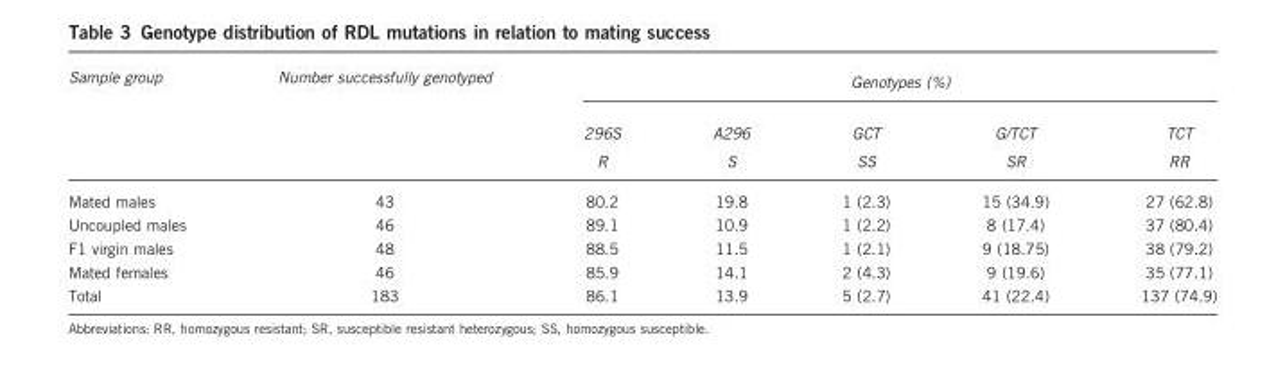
<table><thead><tr><td rowspan="3">Sample group</td><td rowspan="3">Number successfully genotyped</td><td colspan="5">Genotypes (%)</td></tr><tr><td rowspan="2">296S R</td><td rowspan="2">A296 S</td><td rowspan="2">GCT SS</td><td rowspan="2">G/TCT SR</td><td rowspan="2">TCT RR</td></tr><tr></tr></thead><tbody><tr><td>Mated males</td><td>43</td><td>80.2</td><td>19.8</td><td>1 (2.3)</td><td>15 (34.9)</td><td>27 (62.8)</td></tr><tr><td>Uncoupled males</td><td>46</td><td>89.1</td><td>10.9</td><td>1 (2.2)</td><td>8 (17.4)</td><td>37 (80.4)</td></tr><tr><td>F1 virgin males</td><td>48</td><td>88.5</td><td>11.5</td><td>1 (2.1)</td><td>9 (18.75)</td><td>38 (79.2)</td></tr><tr><td>Mated females</td><td>46</td><td>85.9</td><td>14.1</td><td>2 (4.3)</td><td>9 (19.6)</td><td>35 (77.1)</td></tr><tr><td>Total</td><td>183</td><td>86.1</td><td>13.9</td><td>5 (2.7)</td><td>41 (22.4)</td><td>137 (74.9)</td></tr></tbody></table>